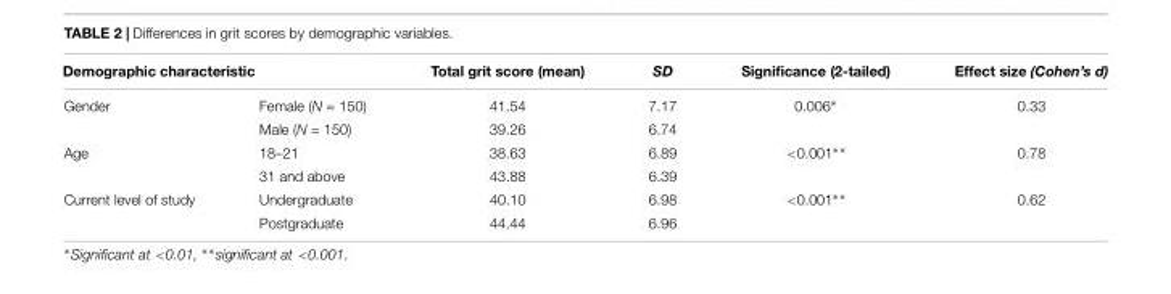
<table><thead><tr><td colspan="2">Demographic characteristic</td><td rowspan="2">Total grit score (mean) 41.54</td><td rowspan="2">SD 7.17</td><td rowspan="2">Significance (2-tailed) 0.006∗</td><td rowspan="2">Effect size (Cohen’s d) 0.33</td></tr><tr><td>Gender</td><td>Female (N = 150)</td></tr></thead><tbody><tr><td></td><td>Male (N = 150)</td><td>39.26</td><td>6.74</td><td></td><td></td></tr><tr><td rowspan="2">Age</td><td>18–21</td><td>38.63</td><td>6.89</td><td>&lt;0.001∗∗</td><td>0.78</td></tr><tr><td>31 and above</td><td>43.88</td><td>6.39</td><td></td><td></td></tr><tr><td rowspan="2">Current level of study</td><td>Undergraduate</td><td>40.10</td><td>6.98</td><td>&lt;0.001∗∗</td><td>0.62</td></tr><tr><td>Postgraduate</td><td>44.44</td><td>6.96</td><td></td><td></td></tr></tbody></table>